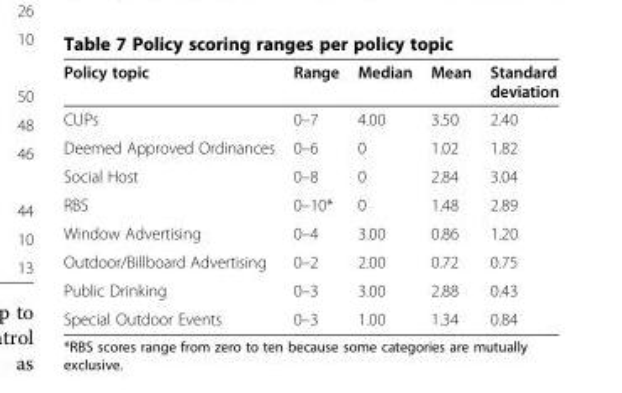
<table><thead><tr><td>Policy topic</td><td>Range</td><td>Median</td><td>Mean</td><td>Standard deviation</td></tr></thead><tbody><tr><td>CUPs</td><td>0–7</td><td>4.00</td><td>3.50</td><td>2.40</td></tr><tr><td>Deemed Approved Ordinances</td><td>0–6</td><td>0</td><td>1.02</td><td>1.82</td></tr><tr><td>Social Host</td><td>0–8</td><td>0</td><td>2.84</td><td>3.04</td></tr><tr><td>RBS</td><td>0–10*</td><td>0</td><td>1.48</td><td>2.89</td></tr><tr><td>Window Advertising</td><td>0–4</td><td>3.00</td><td>0.86</td><td>1.20</td></tr><tr><td>Outdoor/Billboard Advertising</td><td>0–2</td><td>2.00</td><td>0.72</td><td>0.75</td></tr><tr><td>Public Drinking</td><td>0–3</td><td>3.00</td><td>2.88</td><td>0.43</td></tr><tr><td>Special Outdoor Events</td><td>0–3</td><td>1.00</td><td>1.34</td><td>0.84</td></tr></tbody></table>